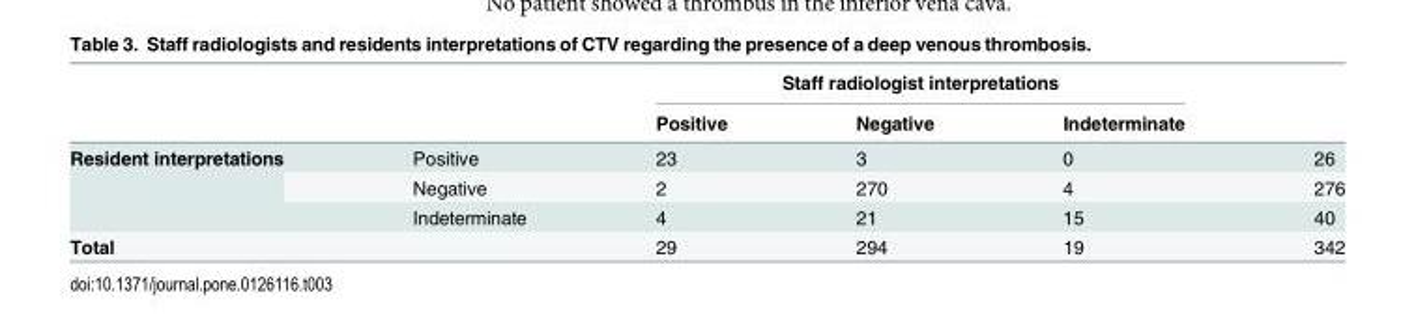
<table><thead><tr><td rowspan="2"></td><td rowspan="2"></td><td colspan="3">Staff radiologist interpretations</td><td rowspan="2"></td></tr><tr><td>Positive</td><td>Negative</td><td>Indeterminate</td></tr></thead><tbody><tr><td rowspan="3">Resident interpretations</td><td>Positive</td><td>23</td><td>3</td><td>0</td><td>26</td></tr><tr><td>Negative</td><td>2</td><td>270</td><td>4</td><td>276</td></tr><tr><td>Indeterminate</td><td>4</td><td>21</td><td>15</td><td>40</td></tr><tr><td>Total</td><td></td><td>29</td><td>294</td><td>19</td><td>342</td></tr></tbody></table>